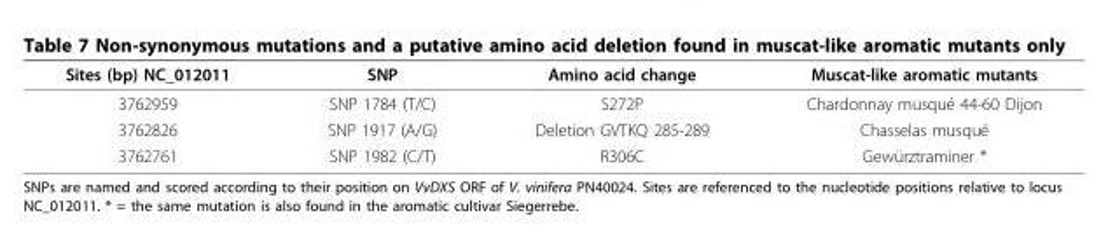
<table><thead><tr><td>Sites (bp) NC_012011</td><td>SNP</td><td>Amino acid change</td><td>Muscat-like aromatic mutants</td></tr></thead><tbody><tr><td>3762959</td><td>SNP 1784 (T/C)</td><td>S272P</td><td>Chardonnay musqué 44-60 Dijon</td></tr><tr><td>3762826</td><td>SNP 1917 (A/G)</td><td>Deletion GVTKQ 285-289</td><td>Chasselas musqué</td></tr><tr><td>3762761</td><td>SNP 1982 (C/T)</td><td>R306C</td><td>Gewürztraminer *</td></tr></tbody></table>